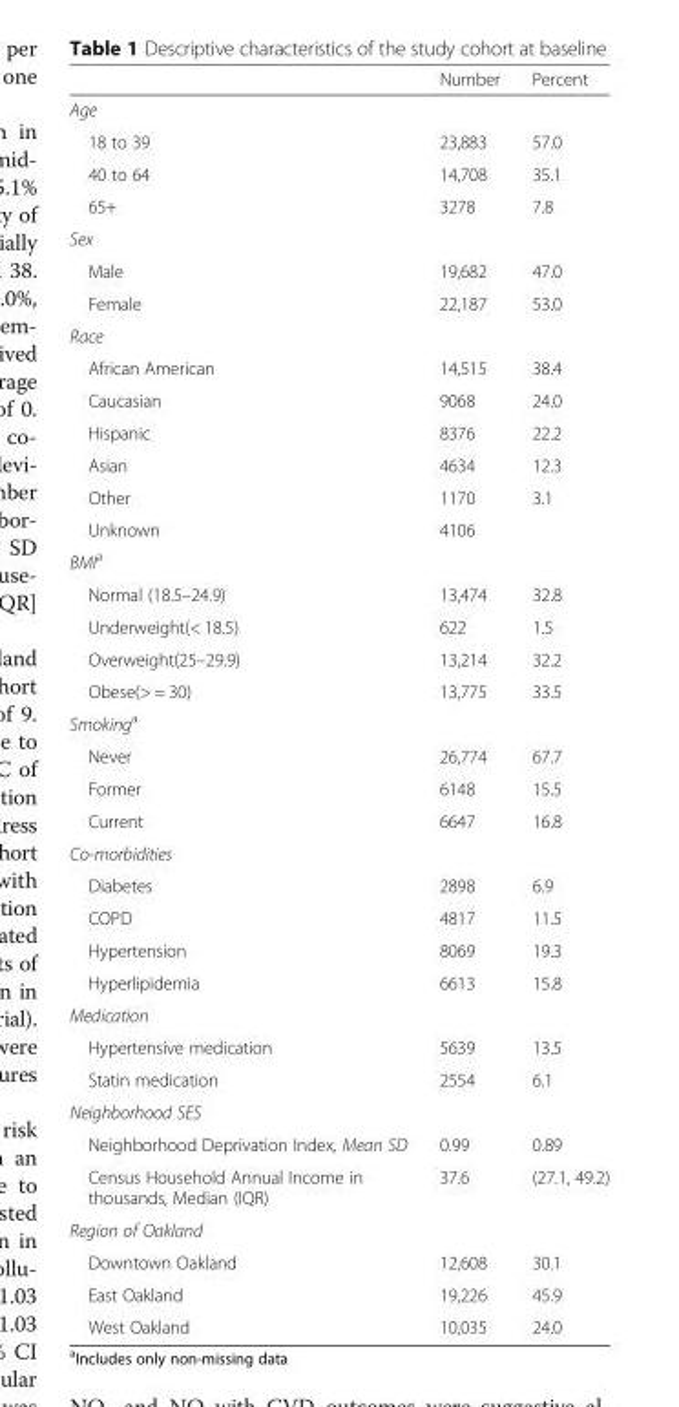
<table><thead><tr><td></td><td>Number</td><td>Percent</td></tr></thead><tbody><tr><td colspan="3">Age</td></tr><tr><td>18 to 39</td><td>23,883</td><td>57.0</td></tr><tr><td>40 to 64</td><td>14,708</td><td>35.1</td></tr><tr><td>65+</td><td>3278</td><td>7.8</td></tr><tr><td colspan="3">Sex</td></tr><tr><td>Male</td><td>19,682</td><td>47.0</td></tr><tr><td>Female</td><td>22,187</td><td>53.0</td></tr><tr><td colspan="3">Race</td></tr><tr><td>African American</td><td>14,515</td><td>38.4</td></tr><tr><td>Caucasian</td><td>9068</td><td>24.0</td></tr><tr><td>Hispanic</td><td>8376</td><td>22.2</td></tr><tr><td>Asian</td><td>4634</td><td>12.3</td></tr><tr><td>Other</td><td>1170</td><td>3.1</td></tr><tr><td>Unknown</td><td>4106</td><td></td></tr><tr><td colspan="3">BMI<sup>a</sup></td></tr><tr><td>Normal (18.5–24.9)</td><td>13,474</td><td>32.8</td></tr><tr><td>Underweight(&lt; 18.5)</td><td>622</td><td>1.5</td></tr><tr><td>Overweight(25–29.9)</td><td>13,214</td><td>32.2</td></tr><tr><td>Obese(&gt; = 30)</td><td>13,775</td><td>33.5</td></tr><tr><td colspan="3">Smoking<sup>a</sup></td></tr><tr><td>Never</td><td>26,774</td><td>67.7</td></tr><tr><td>Former</td><td>6148</td><td>15.5</td></tr><tr><td>Current</td><td>6647</td><td>16.8</td></tr><tr><td colspan="3">Co-morbidities</td></tr><tr><td>Diabetes</td><td>2898</td><td>6.9</td></tr><tr><td>COPD</td><td>4817</td><td>11.5</td></tr><tr><td>Hypertension</td><td>8069</td><td>19.3</td></tr><tr><td>Hyperlipidemia</td><td>6613</td><td>15.8</td></tr><tr><td colspan="3">Medication</td></tr><tr><td>Hypertensive medication</td><td>5639</td><td>13.5</td></tr><tr><td>Statin medication</td><td>2554</td><td>6.1</td></tr><tr><td colspan="3">Neighborhood SES</td></tr><tr><td>Neighborhood Deprivation Index, Mean SD</td><td>0.99</td><td>0.89</td></tr><tr><td>Census Household Annual Income in thousands, Median (IQR)</td><td>37.6</td><td>(27.1, 49.2)</td></tr><tr><td colspan="3">Region of Oakland</td></tr><tr><td>Downtown Oakland</td><td>12,608</td><td>30.1</td></tr><tr><td>East Oakland</td><td>19,226</td><td>45.9</td></tr><tr><td>West Oakland</td><td>10,035</td><td>24.0</td></tr></tbody></table>